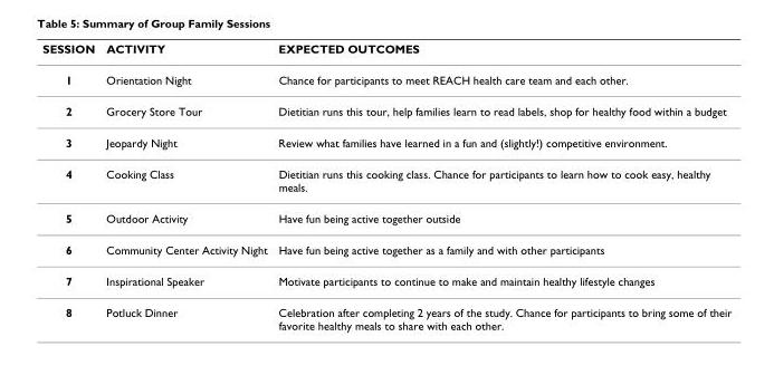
<table><thead><tr><td>SESSION</td><td>ACTIVITY</td><td>EXPECTED OUTCOMES</td></tr></thead><tbody><tr><td>1</td><td>Orientation Night</td><td>Chance for participants to meet REACH health care team and each other.</td></tr><tr><td>2</td><td>Grocery Store Tour</td><td>Dietitian runs this tour, help families learn to read labels, shop for healthy food within a budget</td></tr><tr><td>3</td><td>Jeopardy Night</td><td>Review what families have learned in a fun and (slightly!) competitive environment.</td></tr><tr><td>4</td><td>Cooking Class</td><td>Dietitian runs this cooking class. Chance for participants to learn how to cook easy, healthy meals.</td></tr><tr><td>5</td><td>Outdoor Activity</td><td>Have fun being active together outside</td></tr><tr><td>6</td><td>Community Center Activity Night</td><td>Have fun being active together as a family and with other participants</td></tr><tr><td>7</td><td>Inspirational Speaker</td><td>Motivate participants to continue to make and maintain healthy lifestyle changes</td></tr><tr><td>8</td><td>Potluck Dinner</td><td>Celebration after completing 2 years of the study. Chance for participants to bring some of their favorite healthy meals to share with each other.</td></tr></tbody></table>